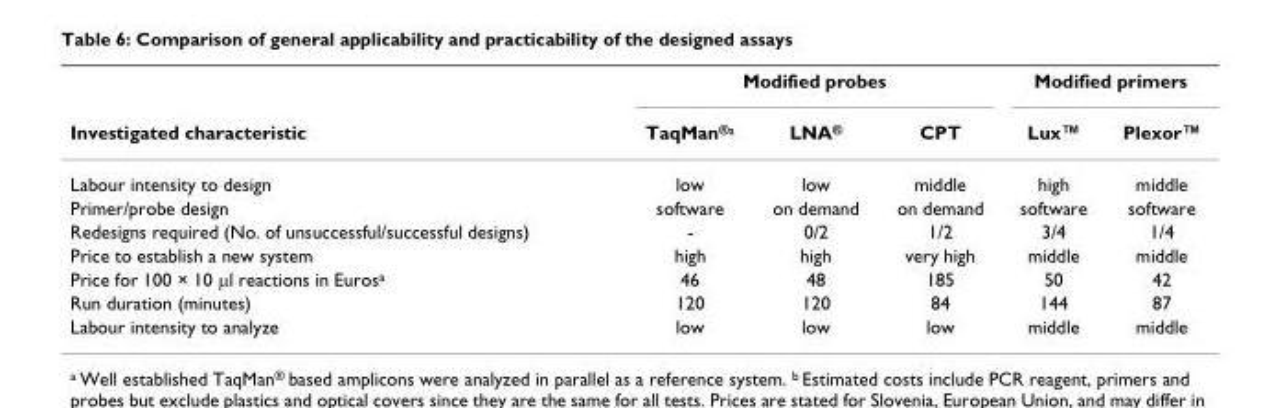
<table><thead><tr><td rowspan="2">Investigated characteristic</td><td colspan="3">Modified probes</td><td colspan="2">Modified primers</td></tr><tr><td>TaqMan<sup>®a</sup></td><td>LNA<sup>®</sup></td><td>CPT</td><td>Lux™</td><td>Plexor™</td></tr></thead><tbody><tr><td>Labour intensity to design</td><td>low</td><td>low</td><td>middle</td><td>high</td><td>middle</td></tr><tr><td>Primer/probe design</td><td>software</td><td>on demand</td><td>on demand</td><td>software</td><td>software</td></tr><tr><td>Redesigns required (No. of unsuccessful/successful designs)</td><td>-</td><td>0/2</td><td>1/2</td><td>3/4</td><td>1/4</td></tr><tr><td>Price to establish a new system</td><td>high</td><td>high</td><td>very high</td><td>middle</td><td>middle</td></tr><tr><td>Price for 100 × 10 µl reactions in Euros<sup>a</sup></td><td>46</td><td>48</td><td>185</td><td>50</td><td>42</td></tr><tr><td>Run duration (minutes)</td><td>120</td><td>120</td><td>84</td><td>144</td><td>87</td></tr><tr><td>Labour intensity to analyze</td><td>low</td><td>low</td><td>low</td><td>middle</td><td>middle</td></tr></tbody></table>